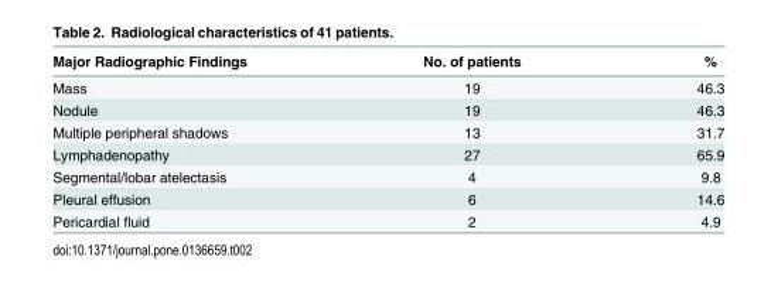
<table><thead><tr><td>Major Radiographic Findings</td><td>No. of patients</td><td>%</td></tr></thead><tbody><tr><td>Mass</td><td>19</td><td>46.3</td></tr><tr><td>Nodule</td><td>19</td><td>46.3</td></tr><tr><td>Multiple peripheral shadows</td><td>13</td><td>31.7</td></tr><tr><td>Lymphadenopathy</td><td>27</td><td>65.9</td></tr><tr><td>Segmental/lobar atelectasis</td><td>4</td><td>9.8</td></tr><tr><td>Pleural effusion</td><td>6</td><td>14.6</td></tr><tr><td>Pericardial fluid</td><td>2</td><td>4.9</td></tr></tbody></table>